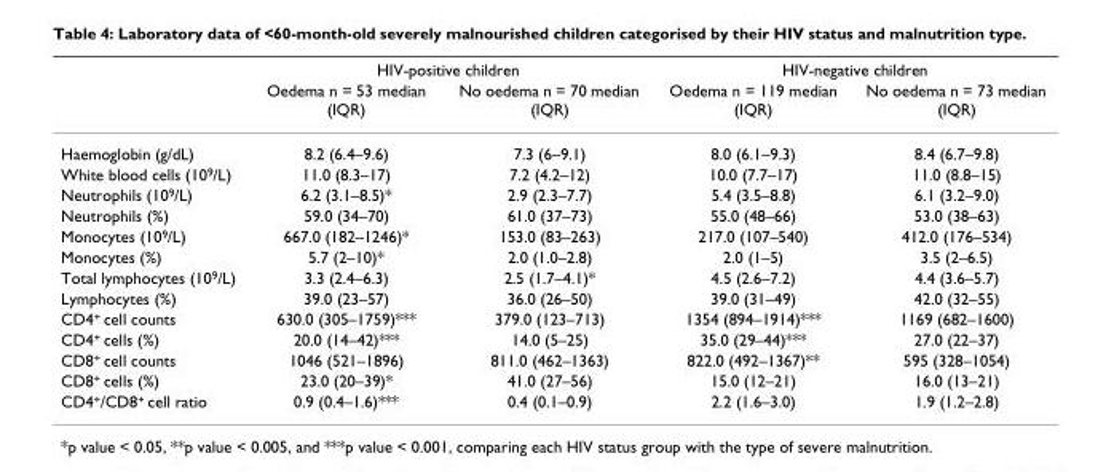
<table><thead><tr><td rowspan="2"></td><td colspan="2">HIV-positive children</td><td colspan="2">HIV-negative children</td></tr><tr><td>Oedema n = 53 median (IQR)</td><td>No oedema n = 70 median (IQR)</td><td>Oedema n = 119 median (IQR)</td><td>No oedema n = 73 median (IQR)</td></tr></thead><tbody><tr><td>Haemoglobin (g/dL)</td><td>8.2 (6.4–9.6)</td><td>7.3 (6–9.1)</td><td>8.0 (6.1–9.3)</td><td>8.4 (6.7–9.8)</td></tr><tr><td>White blood cells (10<sup>9</sup>/L)</td><td>11.0 (8.3–17)</td><td>7.2 (4.2–12)</td><td>10.0 (7.7–17)</td><td>11.0 (8.8–15)</td></tr><tr><td>Neutrophils (10<sup>9</sup>/L)</td><td>6.2 (3.1–8.5)*</td><td>2.9 (2.3–7.7)</td><td>5.4 (3.5–8.8)</td><td>6.1 (3.2–9.0)</td></tr><tr><td>Neutrophils (%)</td><td>59.0 (34–70)</td><td>61.0 (37–73)</td><td>55.0 (48–66)</td><td>53.0 (38–63)</td></tr><tr><td>Monocytes (10<sup>9</sup>/L)</td><td>667.0 (182–1246)*</td><td>153.0 (83–263)</td><td>217.0 (107–540)</td><td>412.0 (176–534)</td></tr><tr><td>Monocytes (%)</td><td>5.7 (2–10)*</td><td>2.0 (1.0–2.8)</td><td>2.0 (1–5)</td><td>3.5 (2–6.5)</td></tr><tr><td>Total lymphocytes (10<sup>9</sup>/L)</td><td>3.3 (2.4–6.3)</td><td>2.5 (1.7–4.1)*</td><td>4.5 (2.6–7.2)</td><td>4.4 (3.6–5.7)</td></tr><tr><td>Lymphocytes (%)</td><td>39.0 (23–57)</td><td>36.0 (26–50)</td><td>39.0 (31–49)</td><td>42.0 (32–55)</td></tr><tr><td>CD4<sup>+</sup> cell counts</td><td>630.0 (305–1759)***</td><td>379.0 (123–713)</td><td>1354 (894–1914)***</td><td>1169 (682–1600)</td></tr><tr><td>CD4<sup>+</sup> cells (%)</td><td>20.0 (14–42)***</td><td>14.0 (5–25)</td><td>35.0 (29–44)***</td><td>27.0 (22–37)</td></tr><tr><td>CD8<sup>+</sup> cell counts</td><td>1046 (521–1896)</td><td>811.0 (462–1363)</td><td>822.0 (492–1367)**</td><td>595 (328–1054)</td></tr><tr><td>CD8<sup>+</sup> cells (%)</td><td>23.0 (20–39)*</td><td>41.0 (27–56)</td><td>15.0 (12–21)</td><td>16.0 (13–21)</td></tr><tr><td>CD4<sup>+</sup>/CD8<sup>+</sup> cell ratio</td><td>0.9 (0.4–1.6)***</td><td>0.4 (0.1–0.9)</td><td>2.2 (1.6–3.0)</td><td>1.9 (1.2–2.8)</td></tr></tbody></table>